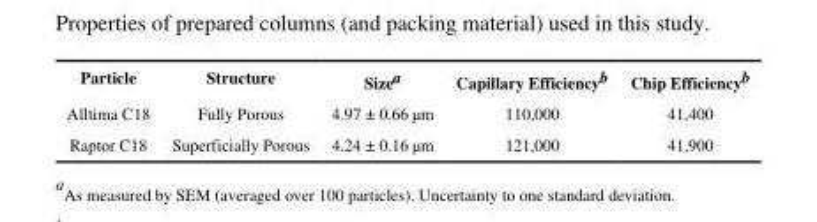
<table><thead><tr><td>Particle</td><td>Structure</td><td>Size<sup>a</sup></td><td>Capillary Efficiency<sup>b</sup></td><td>Chip Efficiency<sup>b</sup></td></tr></thead><tbody><tr><td>Alltima C18</td><td>Fully Porous</td><td>4.97 ± 0.66 µm</td><td>110,000</td><td>41,400</td></tr><tr><td>Raptor C18</td><td>Superficially Porous</td><td>4.24 ± 0.16 µm</td><td>121,000</td><td>41,900</td></tr></tbody></table>